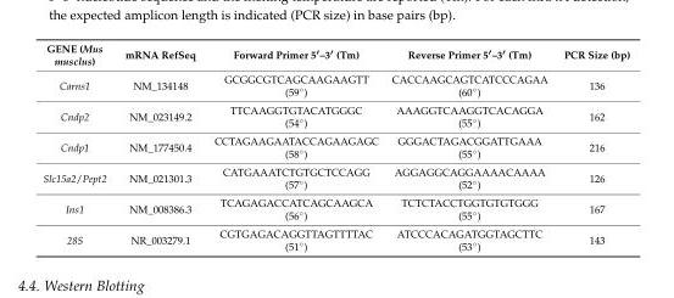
<table><thead><tr><td>GENE (Mus musclus)</td><td>mRNA RefSeq</td><td>Forward Primer 5′–3′ (Tm)</td><td>Reverse Primer 5′–3′ (Tm)</td><td>PCR Size (bp)</td></tr></thead><tbody><tr><td>Carns1</td><td>NM_134148</td><td>GCGGCGTCAGCAAGAAGTT (59◦)</td><td>CACCAAGCAGTCATCCCAGAA (60◦)</td><td>136</td></tr><tr><td>Cndp2</td><td>NM_023149.2</td><td>TTCAAGGTGTACATGGGC (54◦)</td><td>AAAGGTCAAGGTCACAGGA (55◦)</td><td>162</td></tr><tr><td>Cndp1</td><td>NM_177450.4</td><td>CCTAGAAGAATACCAGAAGAGC (58◦)</td><td>GGGACTAGACGGATTGAAA (55◦)</td><td>216</td></tr><tr><td>Slc15a2/Pept2</td><td>NM_021301.3</td><td>CATGAAATCTGTGCTCCAGG (57◦)</td><td>AGGAGGCAGGAAAACAAAA (52◦)</td><td>126</td></tr><tr><td>Ins1</td><td>NM_008386.3</td><td>TCAGAGACCATCAGCAAGCA (56◦)</td><td>TCTCTACCTGGTGTGTGGG (55◦)</td><td>167</td></tr><tr><td>28S</td><td>NR_003279.1</td><td>CGTGAGACAGGTTAGTTTTAC (51◦)</td><td>ATCCCACAGATGGTAGCTTC (53◦)</td><td>143</td></tr></tbody></table>